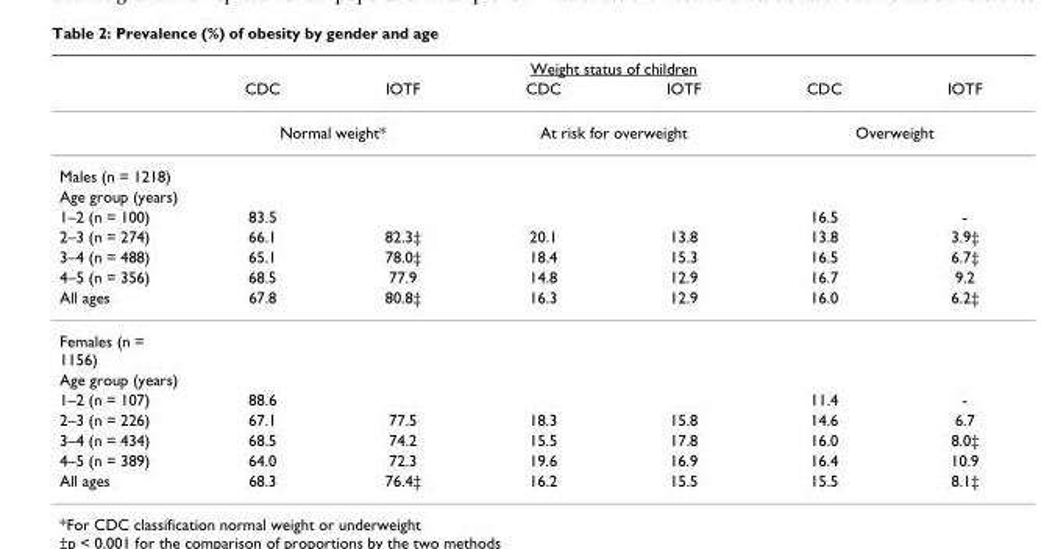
<table><thead><tr><td rowspan="2"></td><td colspan="6">Weight status of children</td></tr><tr><td>CDC</td><td>IOTF</td><td>CDC</td><td>IOTF</td><td>CDC</td><td>IOTF</td></tr></thead><tbody><tr><td></td><td colspan="2">Normal weight*</td><td colspan="2">At risk for overweight</td><td colspan="2">Overweight</td></tr><tr><td colspan="7">Males (n = 1218)</td></tr><tr><td colspan="7">Age group (years)</td></tr><tr><td>1–2 (n = 100)</td><td>83.5</td><td></td><td></td><td></td><td>16.5</td><td>-</td></tr><tr><td>2–3 (n = 274)</td><td>66.1</td><td>82.3‡</td><td>20.1</td><td>13.8</td><td>13.8</td><td>3.9‡</td></tr><tr><td>3–4 (n = 488)</td><td>65.1</td><td>78.0‡</td><td>18.4</td><td>15.3</td><td>16.5</td><td>6.7‡</td></tr><tr><td>4–5 (n = 356)</td><td>68.5</td><td>77.9</td><td>14.8</td><td>12.9</td><td>16.7</td><td>9.2</td></tr><tr><td>All ages</td><td>67.8</td><td>80.8‡</td><td>16.3</td><td>12.9</td><td>16.0</td><td>6.2‡</td></tr><tr><td colspan="7">Females (n = 1156)</td></tr><tr><td colspan="7">Age group (years)</td></tr><tr><td>1–2 (n = 107)</td><td>88.6</td><td></td><td></td><td></td><td>11.4</td><td>-</td></tr><tr><td>2–3 (n = 226)</td><td>67.1</td><td>77.5</td><td>18.3</td><td>15.8</td><td>14.6</td><td>6.7</td></tr><tr><td>3–4 (n = 434)</td><td>68.5</td><td>74.2</td><td>15.5</td><td>17.8</td><td>16.0</td><td>8.0‡</td></tr><tr><td>4–5 (n = 389)</td><td>64.0</td><td>72.3</td><td>19.6</td><td>16.9</td><td>16.4</td><td>10.9</td></tr><tr><td>All ages</td><td>68.3</td><td>76.4‡</td><td>16.2</td><td>15.5</td><td>15.5</td><td>8.1‡</td></tr></tbody></table>